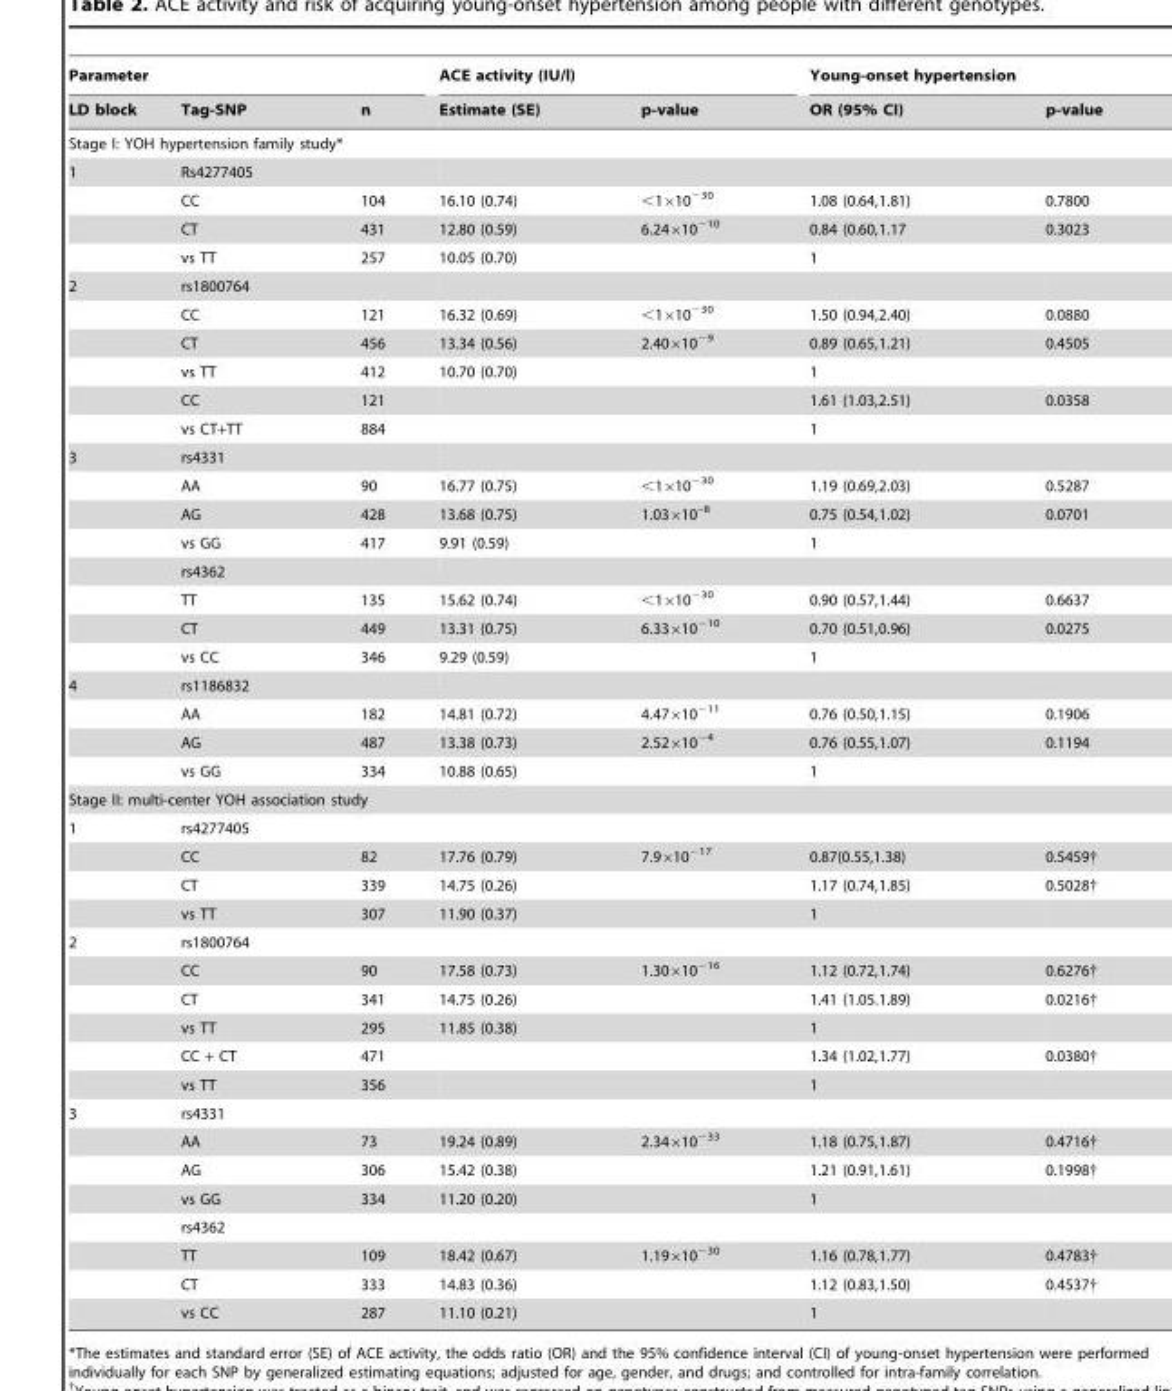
<table><thead><tr><td colspan="3">Parameter</td><td colspan="2">ACE activity (IU/l)</td><td colspan="2">Young-onset hypertension</td></tr><tr><td>LD block</td><td>Tag-SNP</td><td>n</td><td>Estimate (SE)</td><td>p-value</td><td>OR (95% CI)</td><td>p-value</td></tr></thead><tbody><tr><td colspan="7">Stage I: YOH hypertension family study*</td></tr><tr><td rowspan="4">1</td><td>Rs4277405</td><td></td><td colspan="4"></td></tr><tr><td>CC</td><td>104</td><td>16.10 (0.74)</td><td>&lt;1×10<sup>−30</sup></td><td>1.08 (0.64,1.81)</td><td>0.7800</td></tr><tr><td>CT</td><td>431</td><td>12.80 (0.59)</td><td>6.24×10<sup>−10</sup></td><td>0.84 (0.60,1.17</td><td>0.3023</td></tr><tr><td>vs TT</td><td>257</td><td>10.05 (0.70)</td><td></td><td>1</td><td></td></tr><tr><td rowspan="6">2</td><td>rs1800764</td><td></td><td></td><td></td><td></td><td></td></tr><tr><td>CC</td><td>121</td><td>16.32 (0.69)</td><td>&lt;1×10<sup>−30</sup></td><td>1.50 (0.94,2.40)</td><td>0.0880</td></tr><tr><td>CT</td><td>456</td><td>13.34 (0.56)</td><td>2.40×10<sup>−9</sup></td><td>0.89 (0.65,1.21)</td><td>0.4505</td></tr><tr><td>vs TT</td><td>412</td><td>10.70 (0.70)</td><td></td><td>1</td><td></td></tr><tr><td>CC</td><td>121</td><td></td><td></td><td>1.61 (1.03,2.51)</td><td>0.0358</td></tr><tr><td>vs CT+TT</td><td>884</td><td></td><td></td><td>1</td><td></td></tr><tr><td rowspan="8">3</td><td>rs4331</td><td></td><td colspan="4"></td></tr><tr><td>AA</td><td>90</td><td>16.77 (0.75)</td><td>&lt;1×10<sup>−30</sup></td><td>1.19 (0.69,2.03)</td><td>0.5287</td></tr><tr><td>AG</td><td>428</td><td>13.68 (0.75)</td><td>1.03×10<sup>–8</sup></td><td>0.75 (0.54,1.02)</td><td>0.0701</td></tr><tr><td>vs GG</td><td>417</td><td>9.91 (0.59)</td><td></td><td>1</td><td></td></tr><tr><td>rs4362</td><td></td><td colspan="4"></td></tr><tr><td>TT</td><td>135</td><td>15.62 (0.74)</td><td>&lt;1×10<sup>−30</sup></td><td>0.90 (0.57,1.44)</td><td>0.6637</td></tr><tr><td>CT</td><td>449</td><td>13.31 (0.75)</td><td>6.33×10<sup>−10</sup></td><td>0.70 (0.51,0.96)</td><td>0.0275</td></tr><tr><td>vs CC</td><td>346</td><td>9.29 (0.59)</td><td></td><td>1</td><td></td></tr><tr><td rowspan="4">4</td><td>rs1186832</td><td></td><td colspan="4"></td></tr><tr><td>AA</td><td>182</td><td>14.81 (0.72)</td><td>4.47×10<sup>−11</sup></td><td>0.76 (0.50,1.15)</td><td>0.1906</td></tr><tr><td>AG</td><td>487</td><td>13.38 (0.73)</td><td>2.52×10<sup>−4</sup></td><td>0.76 (0.55,1.07)</td><td>0.1194</td></tr><tr><td>vs GG</td><td>334</td><td>10.88 (0.65)</td><td></td><td>1</td><td></td></tr><tr><td colspan="7">Stage II: multi-center YOH association study</td></tr><tr><td rowspan="4">1</td><td>rs4277405</td><td colspan="5"></td></tr><tr><td>CC</td><td>82</td><td>17.76 (0.79)</td><td>7.9×10<sup>−17</sup></td><td>0.87(0.55,1.38)</td><td>0.5459†</td></tr><tr><td>CT</td><td>339</td><td>14.75 (0.26)</td><td></td><td>1.17 (0.74,1.85)</td><td>0.5028†</td></tr><tr><td>vs TT</td><td>307</td><td>11.90 (0.37)</td><td></td><td>1</td><td></td></tr><tr><td rowspan="6">2</td><td>rs1800764</td><td colspan="5"></td></tr><tr><td>CC</td><td>90</td><td>17.58 (0.73)</td><td>1.30×10<sup>−16</sup></td><td>1.12 (0.72,1.74)</td><td>0.6276†</td></tr><tr><td>CT</td><td>341</td><td>14.75 (0.26)</td><td></td><td>1.41 (1.05.1.89)</td><td>0.0216†</td></tr><tr><td>vs TT</td><td>295</td><td>11.85 (0.38)</td><td></td><td>1</td><td></td></tr><tr><td>CC + CT</td><td>471</td><td></td><td></td><td>1.34 (1.02,1.77)</td><td>0.0380†</td></tr><tr><td>vs TT</td><td>356</td><td></td><td></td><td>1</td><td></td></tr><tr><td rowspan="8">3</td><td>rs4331</td><td></td><td colspan="4"></td></tr><tr><td>AA</td><td>73</td><td>19.24 (0.89)</td><td>2.34×10<sup>−33</sup></td><td>1.18 (0.75,1.87)</td><td>0.4716†</td></tr><tr><td>AG</td><td>306</td><td>15.42 (0.38)</td><td></td><td>1.21 (0.91,1.61)</td><td>0.1998†</td></tr><tr><td>vs GG</td><td>334</td><td>11.20 (0.20)</td><td></td><td>1</td><td></td></tr><tr><td>rs4362</td><td></td><td></td><td></td><td></td><td></td></tr><tr><td>TT</td><td>109</td><td>18.42 (0.67)</td><td>1.19×10<sup>−30</sup></td><td>1.16 (0.78,1.77)</td><td>0.4783†</td></tr><tr><td>CT</td><td>333</td><td>14.83 (0.36)</td><td></td><td>1.12 (0.83,1.50)</td><td>0.4537†</td></tr><tr><td>vs CC</td><td>287</td><td>11.10 (0.21)</td><td></td><td>1</td><td></td></tr></tbody></table>